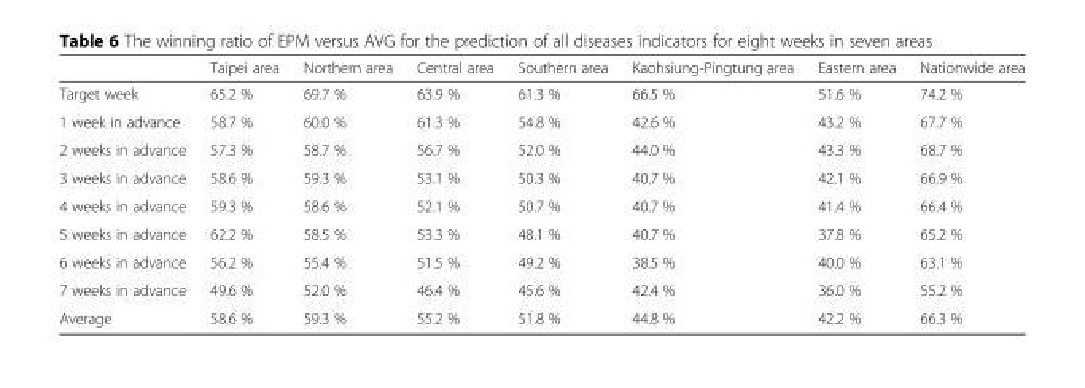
<table><thead><tr><td></td><td>Taipei area</td><td>Northern area</td><td>Central area</td><td>Southern area</td><td>Kaohsiung-Pingtung area</td><td>Eastern area</td><td>Nationwide area</td></tr></thead><tbody><tr><td>Target week</td><td>65.2 %</td><td>69.7 %</td><td>63.9 %</td><td>61.3 %</td><td>66.5 %</td><td>51.6 %</td><td>74.2 %</td></tr><tr><td>1 week in advance</td><td>58.7 %</td><td>60.0 %</td><td>61.3 %</td><td>54.8 %</td><td>42.6 %</td><td>43.2 %</td><td>67.7 %</td></tr><tr><td>2 weeks in advance</td><td>57.3 %</td><td>58.7 %</td><td>56.7 %</td><td>52.0 %</td><td>44.0 %</td><td>43.3 %</td><td>68.7 %</td></tr><tr><td>3 weeks in advance</td><td>58.6 %</td><td>59.3 %</td><td>53.1 %</td><td>50.3 %</td><td>40.7 %</td><td>42.1 %</td><td>66.9 %</td></tr><tr><td>4 weeks in advance</td><td>59.3 %</td><td>58.6 %</td><td>52.1 %</td><td>50.7 %</td><td>40.7 %</td><td>41.4 %</td><td>66.4 %</td></tr><tr><td>5 weeks in advance</td><td>62.2 %</td><td>58.5 %</td><td>53.3 %</td><td>48.1 %</td><td>40.7 %</td><td>37.8 %</td><td>65.2 %</td></tr><tr><td>6 weeks in advance</td><td>56.2 %</td><td>55.4 %</td><td>51.5 %</td><td>49.2 %</td><td>38.5 %</td><td>40.0 %</td><td>63.1 %</td></tr><tr><td>7 weeks in advance</td><td>49.6 %</td><td>52.0 %</td><td>46.4 %</td><td>45.6 %</td><td>42.4 %</td><td>36.0 %</td><td>55.2 %</td></tr><tr><td>Average</td><td>58.6 %</td><td>59.3 %</td><td>55.2 %</td><td>51.8 %</td><td>44.8 %</td><td>42.2 %</td><td>66.3 %</td></tr></tbody></table>